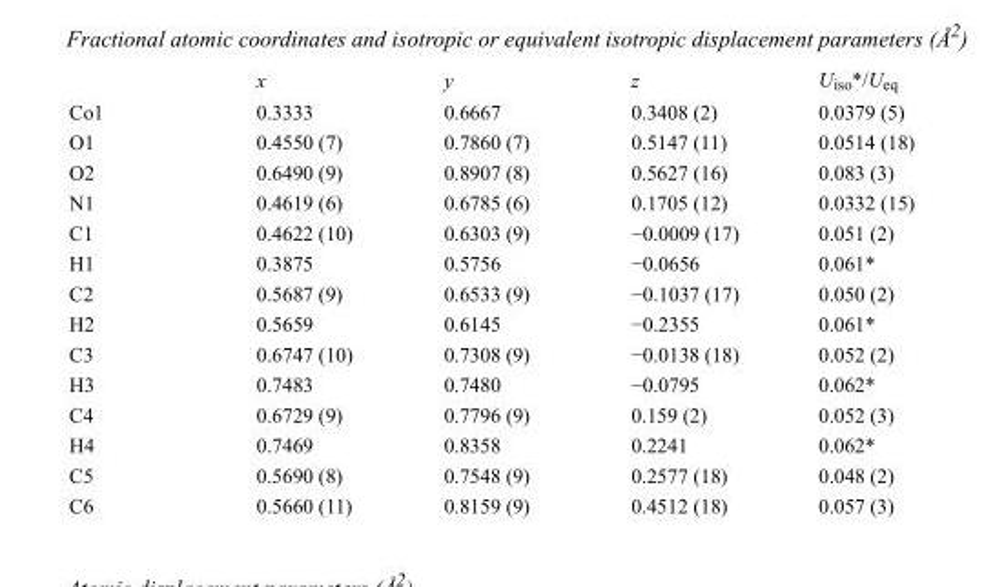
<table><thead><tr><td></td><td>x</td><td>y</td><td>z</td><td>U<sub>iso</sub>*/U<sub>eq</sub></td></tr></thead><tbody><tr><td>Co1</td><td>0.3333</td><td>0.6667</td><td>0.3408 (2)</td><td>0.0379 (5)</td></tr><tr><td>O1</td><td>0.4550 (7)</td><td>0.7860 (7)</td><td>0.5147 (11)</td><td>0.0514 (18)</td></tr><tr><td>O2</td><td>0.6490 (9)</td><td>0.8907 (8)</td><td>0.5627 (16)</td><td>0.083 (3)</td></tr><tr><td>N1</td><td>0.4619 (6)</td><td>0.6785 (6)</td><td>0.1705 (12)</td><td>0.0332 (15)</td></tr><tr><td>C1</td><td>0.4622 (10)</td><td>0.6303 (9)</td><td>−0.0009 (17)</td><td>0.051 (2)</td></tr><tr><td>H1</td><td>0.3875</td><td>0.5756</td><td>−0.0656</td><td>0.061*</td></tr><tr><td>C2</td><td>0.5687 (9)</td><td>0.6533 (9)</td><td>−0.1037 (17)</td><td>0.050 (2)</td></tr><tr><td>H2</td><td>0.5659</td><td>0.6145</td><td>−0.2355</td><td>0.061*</td></tr><tr><td>C3</td><td>0.6747 (10)</td><td>0.7308 (9)</td><td>−0.0138 (18)</td><td>0.052 (2)</td></tr><tr><td>H3</td><td>0.7483</td><td>0.7480</td><td>−0.0795</td><td>0.062*</td></tr><tr><td>C4</td><td>0.6729 (9)</td><td>0.7796 (9)</td><td>0.159 (2)</td><td>0.052 (3)</td></tr><tr><td>H4</td><td>0.7469</td><td>0.8358</td><td>0.2241</td><td>0.062*</td></tr><tr><td>C5</td><td>0.5690 (8)</td><td>0.7548 (9)</td><td>0.2577 (18)</td><td>0.048 (2)</td></tr><tr><td>C6</td><td>0.5660 (11)</td><td>0.8159 (9)</td><td>0.4512 (18)</td><td>0.057 (3)</td></tr></tbody></table>